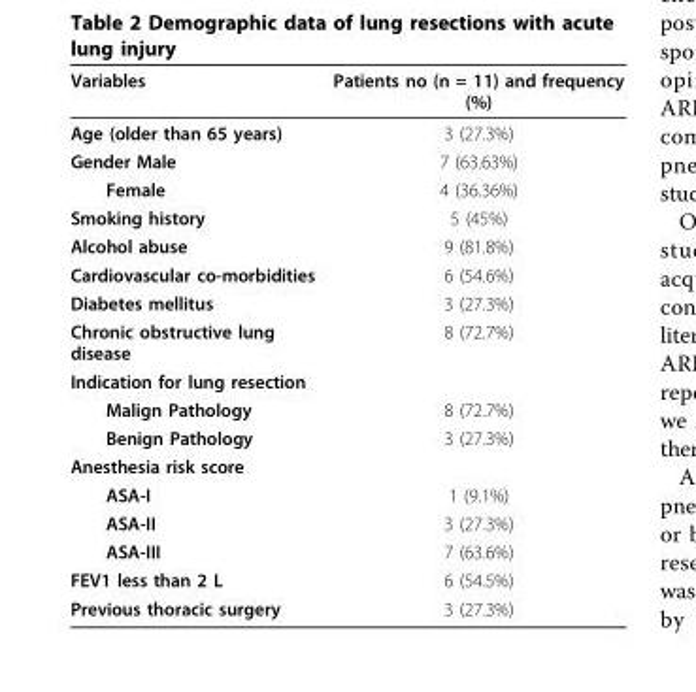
<table><thead><tr><td>Variables</td><td>Patients no (n = 11) and frequency (%)</td></tr></thead><tbody><tr><td>Age (older than 65 years)</td><td>3 (27.3%)</td></tr><tr><td>Gender Male</td><td>7 (63.63%)</td></tr><tr><td>Female</td><td>4 (36.36%)</td></tr><tr><td>Smoking history</td><td>5 (45%)</td></tr><tr><td>Alcohol abuse</td><td>9 (81.8%)</td></tr><tr><td>Cardiovascular co-morbidities</td><td>6 (54.6%)</td></tr><tr><td>Diabetes mellitus</td><td>3 (27.3%)</td></tr><tr><td>Chronic obstructive lung disease</td><td>8 (72.7%)</td></tr><tr><td colspan="2">Indication for lung resection</td></tr><tr><td>Malign Pathology</td><td>8 (72.7%)</td></tr><tr><td>Benign Pathology</td><td>3 (27.3%)</td></tr><tr><td colspan="2">Anesthesia risk score</td></tr><tr><td>ASA-I</td><td>1 (9.1%)</td></tr><tr><td>ASA-II</td><td>3 (27.3%)</td></tr><tr><td>ASA-III</td><td>7 (63.6%)</td></tr><tr><td>FEV1 less than 2 L</td><td>6 (54.5%)</td></tr><tr><td>Previous thoracic surgery</td><td>3 (27.3%)</td></tr></tbody></table>